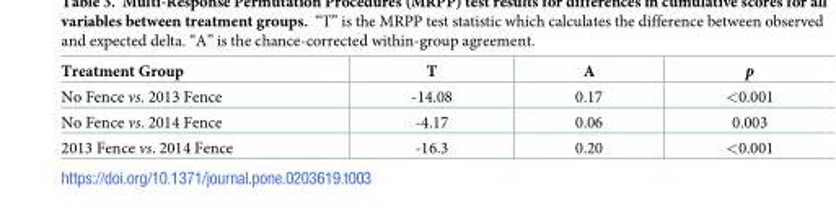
<table><thead><tr><td>Treatment Group</td><td>T</td><td>A</td><td>p</td></tr></thead><tbody><tr><td>No Fence vs. 2013 Fence</td><td>-14.08</td><td>0.17</td><td>&lt;0.001</td></tr><tr><td>No Fence vs. 2014 Fence</td><td>-4.17</td><td>0.06</td><td>0.003</td></tr><tr><td>2013 Fence vs. 2014 Fence</td><td>-16.3</td><td>0.20</td><td>&lt;0.001</td></tr></tbody></table>